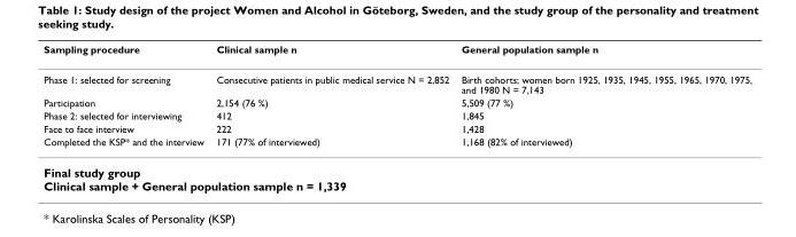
<table><thead><tr><td>Sampling procedure</td><td>Clinical sample n</td><td>General population sample n</td></tr></thead><tbody><tr><td>Phase 1: selected for screening</td><td>Consecutive patients in public medical service N = 2,852</td><td>Birth cohorts; women born 1925, 1935, 1945, 1955, 1965, 1970, 1975, and 1980 N = 7,143</td></tr><tr><td>Participation</td><td>2,154 (76 %)</td><td>5,509 (77 %)</td></tr><tr><td>Phase 2: selected for interviewing</td><td>412</td><td>1,845</td></tr><tr><td>Face to face interview</td><td>222</td><td>1,428</td></tr><tr><td>Completed the KSP* and the interview</td><td>171 (77% of interviewed)</td><td>1,168 (82% of interviewed)</td></tr><tr><td colspan="3">Final study group Clinical sample + General population sample n = 1,339</td></tr></tbody></table>